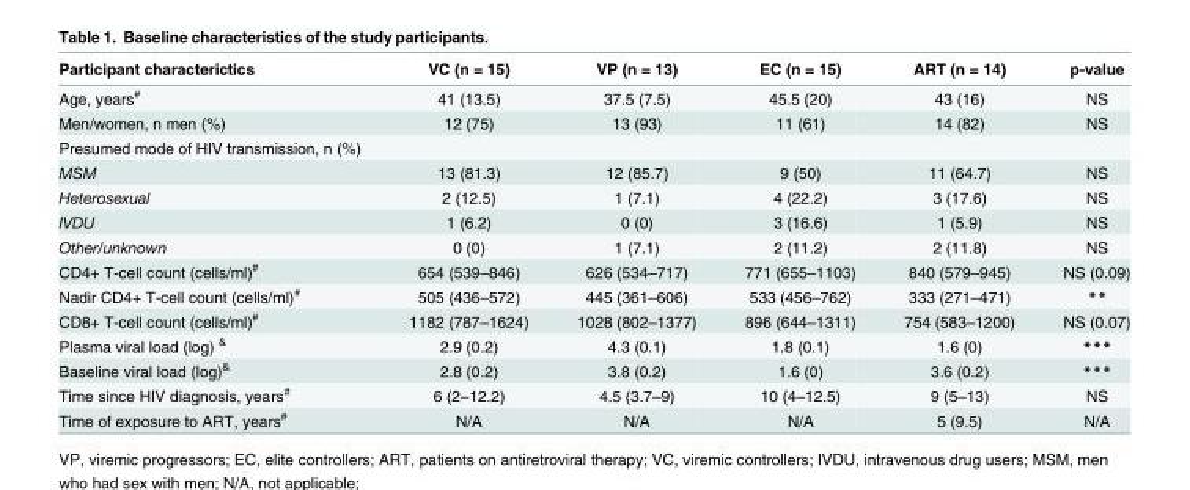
<table><thead><tr><td>Participant characterictics</td><td>VC (n = 15)</td><td>VP (n = 13)</td><td>EC (n = 15)</td><td>ART (n = 14)</td><td>p-value</td></tr></thead><tbody><tr><td>Age, years<sup>#</sup></td><td>41 (13.5)</td><td>37.5 (7.5)</td><td>45.5 (20)</td><td>43 (16)</td><td>NS</td></tr><tr><td>Men/women, n men (%)</td><td>12 (75)</td><td>13 (93)</td><td>11 (61)</td><td>14 (82)</td><td>NS</td></tr><tr><td colspan="6">Presumed mode of HIV transmission, n (%)</td></tr><tr><td>MSM</td><td>13 (81.3)</td><td>12 (85.7)</td><td>9 (50)</td><td>11 (64.7)</td><td>NS</td></tr><tr><td>Heterosexual</td><td>2 (12.5)</td><td>1 (7.1)</td><td>4 (22.2)</td><td>3 (17.6)</td><td>NS</td></tr><tr><td>IVDU</td><td>1 (6.2)</td><td>0 (0)</td><td>3 (16.6)</td><td>1 (5.9)</td><td>NS</td></tr><tr><td>Other/unknown</td><td>0 (0)</td><td>1 (7.1)</td><td>2 (11.2)</td><td>2 (11.8)</td><td>NS</td></tr><tr><td>CD4+ T-cell count (cells/ml)<sup>#</sup></td><td>654 (539–846)</td><td>626 (534–717)</td><td>771 (655–1103)</td><td>840 (579–945)</td><td>NS (0.09)</td></tr><tr><td>Nadir CD4+ T-cell count (cells/ml)<sup>#</sup></td><td>505 (436–572)</td><td>445 (361–606)</td><td>533 (456–762)</td><td>333 (271–471)</td><td>**</td></tr><tr><td>CD8+ T-cell count (cells/ml)<sup>#</sup></td><td>1182 (787–1624)</td><td>1028 (802–1377)</td><td>896 (644–1311)</td><td>754 (583–1200)</td><td>NS (0.07)</td></tr><tr><td>Plasma viral load (log) <sup>&amp;</sup></td><td>2.9 (0.2)</td><td>4.3 (0.1)</td><td>1.8 (0.1)</td><td>1.6 (0)</td><td>***</td></tr><tr><td>Baseline viral load (log)<sup>&amp;</sup></td><td>2.8 (0.2)</td><td>3.8 (0.2)</td><td>1.6 (0)</td><td>3.6 (0.2)</td><td>***</td></tr><tr><td>Time since HIV diagnosis, years<sup>#</sup></td><td>6 (2–12.2)</td><td>4.5 (3.7–9)</td><td>10 (4–12.5)</td><td>9 (5–13)</td><td>NS</td></tr><tr><td>Time of exposure to ART, years<sup>#</sup></td><td>N/A</td><td>N/A</td><td>N/A</td><td>5 (9.5)</td><td>N/A</td></tr></tbody></table>